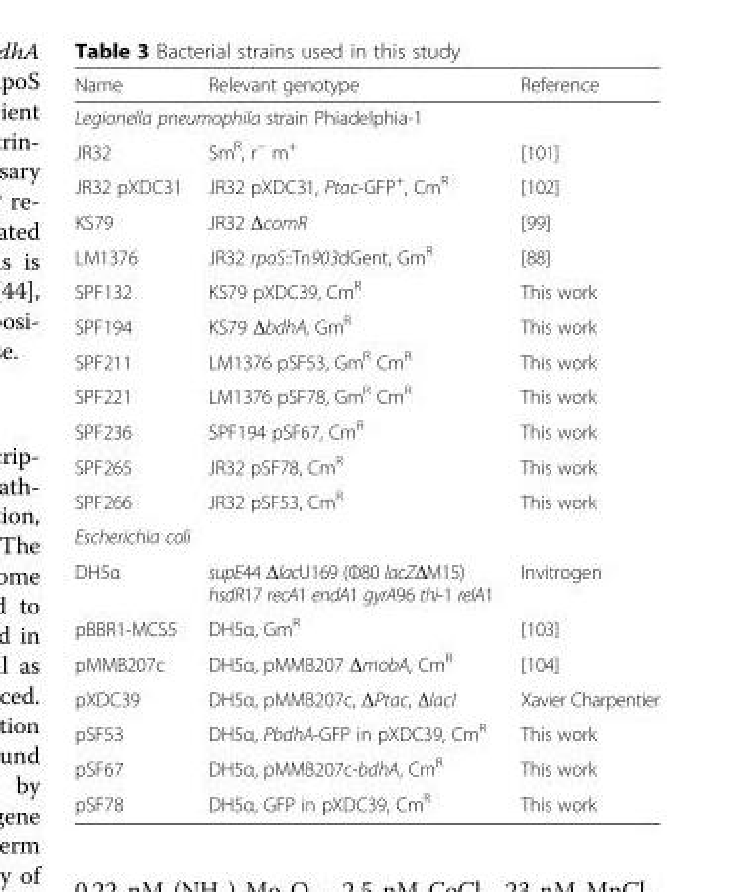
<table><thead><tr><td>Name</td><td>Relevant genotype</td><td>Reference</td></tr></thead><tbody><tr><td colspan="3">Legionella pneumophila strain Phiadelphia-1</td></tr><tr><td>JR32</td><td>Sm<sup>R</sup>, r<sup>−</sup> m<sup>+</sup></td><td>[101]</td></tr><tr><td>JR32 pXDC31</td><td>JR32 pXDC31, Ptac-GFP<sup>+</sup>, Cm<sup>R</sup></td><td>[102]</td></tr><tr><td>KS79</td><td>JR32 ΔcomR</td><td>[99]</td></tr><tr><td>LM1376</td><td>JR32 rpoS::Tn903dGent, Gm<sup>R</sup></td><td>[88]</td></tr><tr><td>SPF132</td><td>KS79 pXDC39, Cm<sup>R</sup></td><td>This work</td></tr><tr><td>SPF194</td><td>KS79 ΔbdhA, Gm<sup>R</sup></td><td>This work</td></tr><tr><td>SPF211</td><td>LM1376 pSF53, Gm<sup>R</sup> Cm<sup>R</sup></td><td>This work</td></tr><tr><td>SPF221</td><td>LM1376 pSF78, Gm<sup>R</sup> Cm<sup>R</sup></td><td>This work</td></tr><tr><td>SPF236</td><td>SPF194 pSF67, Cm<sup>R</sup></td><td>This work</td></tr><tr><td>SPF265</td><td>JR32 pSF78, Cm<sup>R</sup></td><td>This work</td></tr><tr><td>SPF266</td><td>JR32 pSF53, Cm<sup>R</sup></td><td>This work</td></tr><tr><td colspan="3">Escherichia coli</td></tr><tr><td>DH5α</td><td>supE44 ΔlacU169 (Φ80 lacZΔM15) hsdR17 recA1 endA1 gyrA96 thi-1 relA1</td><td>Invitrogen</td></tr><tr><td>pBBR1-MCS5</td><td>DH5α, Gm<sup>R</sup></td><td>[103]</td></tr><tr><td>pMMB207c</td><td>DH5α, pMMB207 ΔmobA, Cm<sup>R</sup></td><td>[104]</td></tr><tr><td>pXDC39</td><td>DH5α, pMMB207c, ΔPtac, ΔlacI</td><td>Xavier Charpentier</td></tr><tr><td>pSF53</td><td>DH5α, PbdhA-GFP in pXDC39, Cm<sup>R</sup></td><td>This work</td></tr><tr><td>pSF67</td><td>DH5α, pMMB207c-bdhA, Cm<sup>R</sup></td><td>This work</td></tr><tr><td>pSF78</td><td>DH5α, GFP in pXDC39, Cm<sup>R</sup></td><td>This work</td></tr></tbody></table>